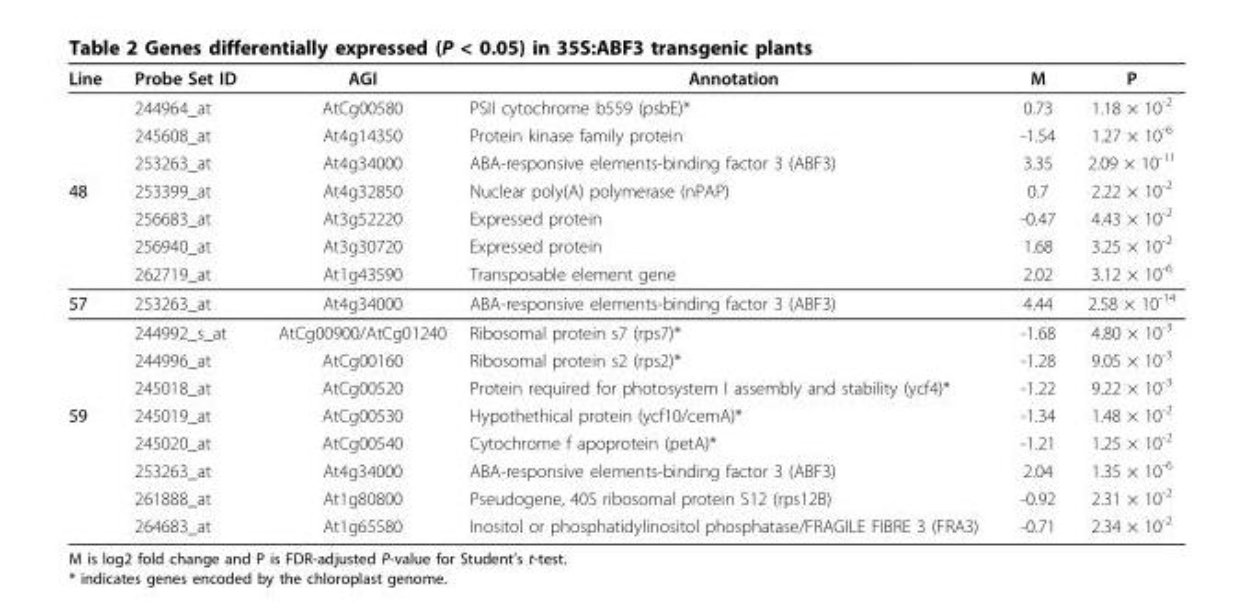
<table><thead><tr><td>Line</td><td>Probe Set ID</td><td>AGI</td><td>Annotation</td><td>M</td><td>P</td></tr></thead><tbody><tr><td rowspan="7">48</td><td>244964_at</td><td>AtCg00580</td><td>PSII cytochrome b559 (psbE)*</td><td>0.73</td><td>1.18 × 10<sup>-2</sup></td></tr><tr><td>245608_at</td><td>At4g14350</td><td>Protein kinase family protein</td><td>-1.54</td><td>1.27 × 10<sup>-6</sup></td></tr><tr><td>253263_at</td><td>At4g34000</td><td>ABA-responsive elements-binding factor 3 (ABF3)</td><td>3.35</td><td>2.09 × 10<sup>-11</sup></td></tr><tr><td>253399_at</td><td>At4g32850</td><td>Nuclear poly(A) polymerase (nPAP)</td><td>0.7</td><td>2.22 × 10<sup>-2</sup></td></tr><tr><td>256683_at</td><td>At3g52220</td><td>Expressed protein</td><td>-0.47</td><td>4.43 × 10<sup>-2</sup></td></tr><tr><td>256940_at</td><td>At3g30720</td><td>Expressed protein</td><td>1.68</td><td>3.25 × 10<sup>-2</sup></td></tr><tr><td>262719_at</td><td>At1g43590</td><td>Transposable element gene</td><td>2.02</td><td>3.12 × 10<sup>-6</sup></td></tr><tr><td>57</td><td>253263_at</td><td>At4g34000</td><td>ABA-responsive elements-binding factor 3 (ABF3)</td><td>4.44</td><td>2.58 × 10<sup>-14</sup></td></tr><tr><td rowspan="8">59</td><td>244992_s_at</td><td>AtCg00900/AtCg01240</td><td>Ribosomal protein s7 (rps7)*</td><td>-1.68</td><td>4.80 × 10<sup>-3</sup></td></tr><tr><td>244996_at</td><td>AtCg00160</td><td>Ribosomal protein s2 (rps2)*</td><td>-1.28</td><td>9.05 × 10<sup>-3</sup></td></tr><tr><td>245018_at</td><td>AtCg00520</td><td>Protein required for photosystem I assembly and stability (ycf4)*</td><td>-1.22</td><td>9.22 × 10<sup>-3</sup></td></tr><tr><td>245019_at</td><td>AtCg00530</td><td>Hypothethical protein (ycf10/cemA)*</td><td>-1.34</td><td>1.48 × 10<sup>-2</sup></td></tr><tr><td>245020_at</td><td>AtCg00540</td><td>Cytochrome f apoprotein (petA)*</td><td>-1.21</td><td>1.25 × 10<sup>-2</sup></td></tr><tr><td>253263_at</td><td>At4g34000</td><td>ABA-responsive elements-binding factor 3 (ABF3)</td><td>2.04</td><td>1.35 × 10<sup>-6</sup></td></tr><tr><td>261888_at</td><td>At1g80800</td><td>Pseudogene, 40S ribosomal protein S12 (rps12B)</td><td>-0.92</td><td>2.31 × 10<sup>-2</sup></td></tr><tr><td>264683_at</td><td>At1g65580</td><td>Inositol or phosphatidylinositol phosphatase/FRAGILE FIBRE 3 (FRA3)</td><td>-0.71</td><td>2.34 × 10<sup>-2</sup></td></tr></tbody></table>